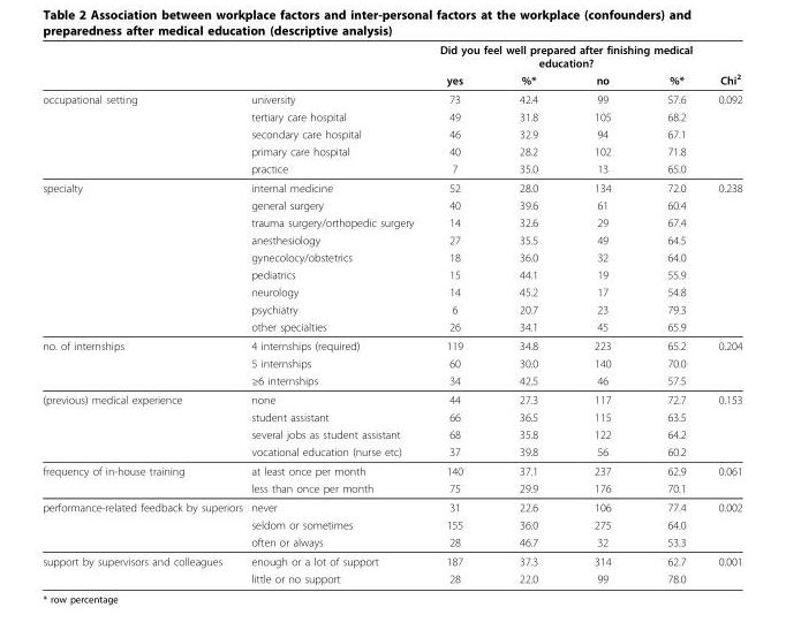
<table><thead><tr><td rowspan="2"></td><td rowspan="2"></td><td colspan="4">Did you feel well prepared after finishing medical education?</td><td rowspan="2">Chi<sup>2</sup></td></tr><tr><td>yes</td><td>%*</td><td>no</td><td>%*</td></tr></thead><tbody><tr><td rowspan="5">occupational setting</td><td>university</td><td>73</td><td>42.4</td><td>99</td><td>57.6</td><td>0.092</td></tr><tr><td>tertiary care hospital</td><td>49</td><td>31.8</td><td>105</td><td>68.2</td><td></td></tr><tr><td>secondary care hospital</td><td>46</td><td>32.9</td><td>94</td><td>67.1</td><td></td></tr><tr><td>primary care hospital</td><td>40</td><td>28.2</td><td>102</td><td>71.8</td><td></td></tr><tr><td>practice</td><td>7</td><td>35.0</td><td>13</td><td>65.0</td><td></td></tr><tr><td rowspan="9">specialty</td><td>internal medicine</td><td>52</td><td>28.0</td><td>134</td><td>72.0</td><td>0.238</td></tr><tr><td>general surgery</td><td>40</td><td>39.6</td><td>61</td><td>60.4</td><td></td></tr><tr><td>trauma surgery/orthopedic surgery</td><td>14</td><td>32.6</td><td>29</td><td>67.4</td><td></td></tr><tr><td>anesthesiology</td><td>27</td><td>35.5</td><td>49</td><td>64.5</td><td></td></tr><tr><td>gynecolocy/obstetrics</td><td>18</td><td>36.0</td><td>32</td><td>64.0</td><td></td></tr><tr><td>pediatrics</td><td>15</td><td>44.1</td><td>19</td><td>55.9</td><td></td></tr><tr><td>neurology</td><td>14</td><td>45.2</td><td>17</td><td>54.8</td><td></td></tr><tr><td>psychiatry</td><td>6</td><td>20.7</td><td>23</td><td>79.3</td><td></td></tr><tr><td>other specialties</td><td>26</td><td>34.1</td><td>45</td><td>65.9</td><td></td></tr><tr><td rowspan="3">no. of internships</td><td>4 internships (required)</td><td>119</td><td>34.8</td><td>223</td><td>65.2</td><td>0.204</td></tr><tr><td>5 internships</td><td>60</td><td>30.0</td><td>140</td><td>70.0</td><td></td></tr><tr><td>≥6 internships</td><td>34</td><td>42.5</td><td>46</td><td>57.5</td><td></td></tr><tr><td rowspan="4">(previous) medical experience</td><td>none</td><td>44</td><td>27.3</td><td>117</td><td>72.7</td><td>0.153</td></tr><tr><td>student assistant</td><td>66</td><td>36.5</td><td>115</td><td>63.5</td><td></td></tr><tr><td>several jobs as student assistant</td><td>68</td><td>35.8</td><td>122</td><td>64.2</td><td></td></tr><tr><td>vocational education (nurse etc)</td><td>37</td><td>39.8</td><td>56</td><td>60.2</td><td></td></tr><tr><td rowspan="2">frequency of in-house training</td><td>at least once per month</td><td>140</td><td>37.1</td><td>237</td><td>62.9</td><td>0.061</td></tr><tr><td>less than once per month</td><td>75</td><td>29.9</td><td>176</td><td>70.1</td><td></td></tr><tr><td rowspan="3">performance-related feedback by superiors</td><td>never</td><td>31</td><td>22.6</td><td>106</td><td>77.4</td><td>0.002</td></tr><tr><td>seldom or sometimes</td><td>155</td><td>36.0</td><td>275</td><td>64.0</td><td></td></tr><tr><td>often or always</td><td>28</td><td>46.7</td><td>32</td><td>53.3</td><td></td></tr><tr><td rowspan="2">support by supervisors and colleagues</td><td>enough or a lot of support</td><td>187</td><td>37.3</td><td>314</td><td>62.7</td><td>0.001</td></tr><tr><td>little or no support</td><td>28</td><td>22.0</td><td>99</td><td>78.0</td><td></td></tr></tbody></table>